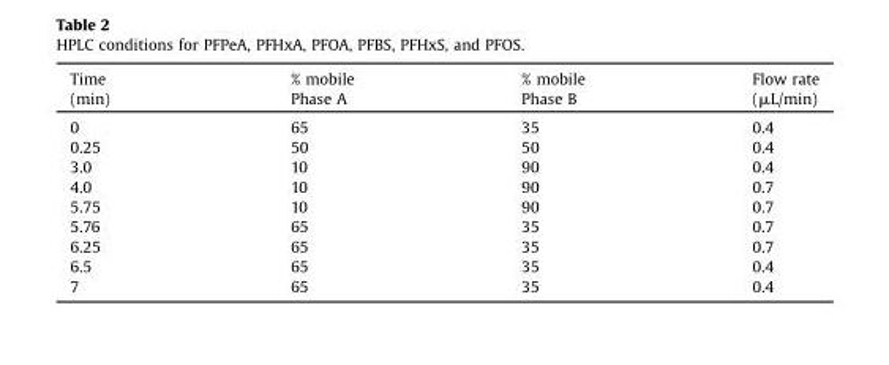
<table><thead><tr><td>Time (min)</td><td>% mobile Phase A</td><td>% mobile Phase B</td><td>Flow rate (μL/min)</td></tr></thead><tbody><tr><td>0</td><td>65</td><td>35</td><td>0.4</td></tr><tr><td>0.25</td><td>50</td><td>50</td><td>0.4</td></tr><tr><td>3.0</td><td>10</td><td>90</td><td>0.4</td></tr><tr><td>4.0</td><td>10</td><td>90</td><td>0.7</td></tr><tr><td>5.75</td><td>10</td><td>90</td><td>0.7</td></tr><tr><td>5.76</td><td>65</td><td>35</td><td>0.7</td></tr><tr><td>6.25</td><td>65</td><td>35</td><td>0.7</td></tr><tr><td>6.5</td><td>65</td><td>35</td><td>0.4</td></tr><tr><td>7</td><td>65</td><td>35</td><td>0.4</td></tr></tbody></table>